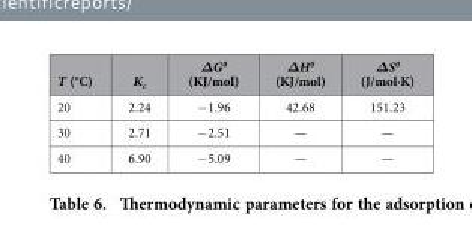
<table><thead><tr><td>T (°C)</td><td>K<sub>c</sub></td><td>ΔG<sup>0</sup> (KJ/mol)</td><td>ΔH<sup>0</sup> (KJ/mol)</td><td>ΔS<sup>0</sup> (J/mol·K)</td></tr></thead><tbody><tr><td>20</td><td>2.24</td><td>− 1.96</td><td>42.68</td><td>151.23</td></tr><tr><td>30</td><td>2.71</td><td>− 2.51</td><td>—</td><td>—</td></tr><tr><td>40</td><td>6.90</td><td>− 5.09</td><td>—</td><td>—</td></tr></tbody></table>